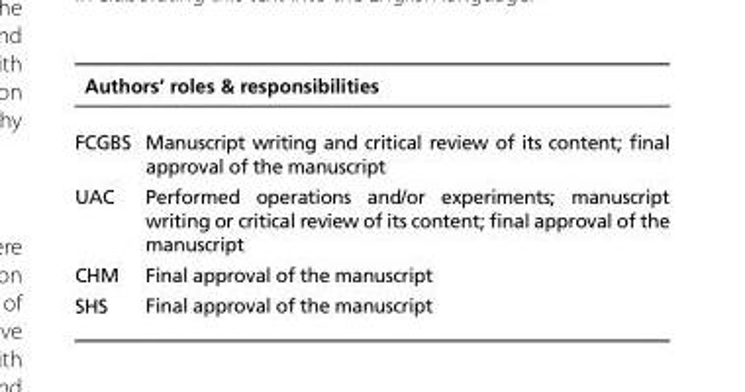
<table><thead><tr><td colspan="2">Authors’ roles &amp; responsibilities</td></tr><tr><td>FCGBS</td><td>Manuscript writing and critical review of its content; final approval of the manuscript</td></tr></thead><tbody><tr><td>UAC</td><td>Performed operations and/or experiments; manuscript writing or critical review of its content; final approval of the manuscript</td></tr><tr><td>CHM</td><td>Final approval of the manuscript</td></tr><tr><td>SHS</td><td>Final approval of the manuscript</td></tr></tbody></table>